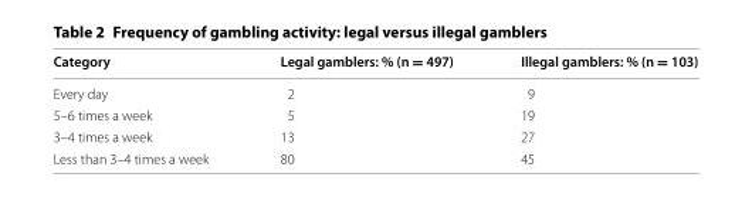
<table><thead><tr><td>Category</td><td>Legal gamblers: % (n = 497)</td><td>Illegal gamblers: % (n = 103)</td></tr></thead><tbody><tr><td>Every day</td><td>2</td><td>9</td></tr><tr><td>5–6 times a week</td><td>5</td><td>19</td></tr><tr><td>3–4 times a week</td><td>13</td><td>27</td></tr><tr><td>Less than 3–4 times a week</td><td>80</td><td>45</td></tr></tbody></table>